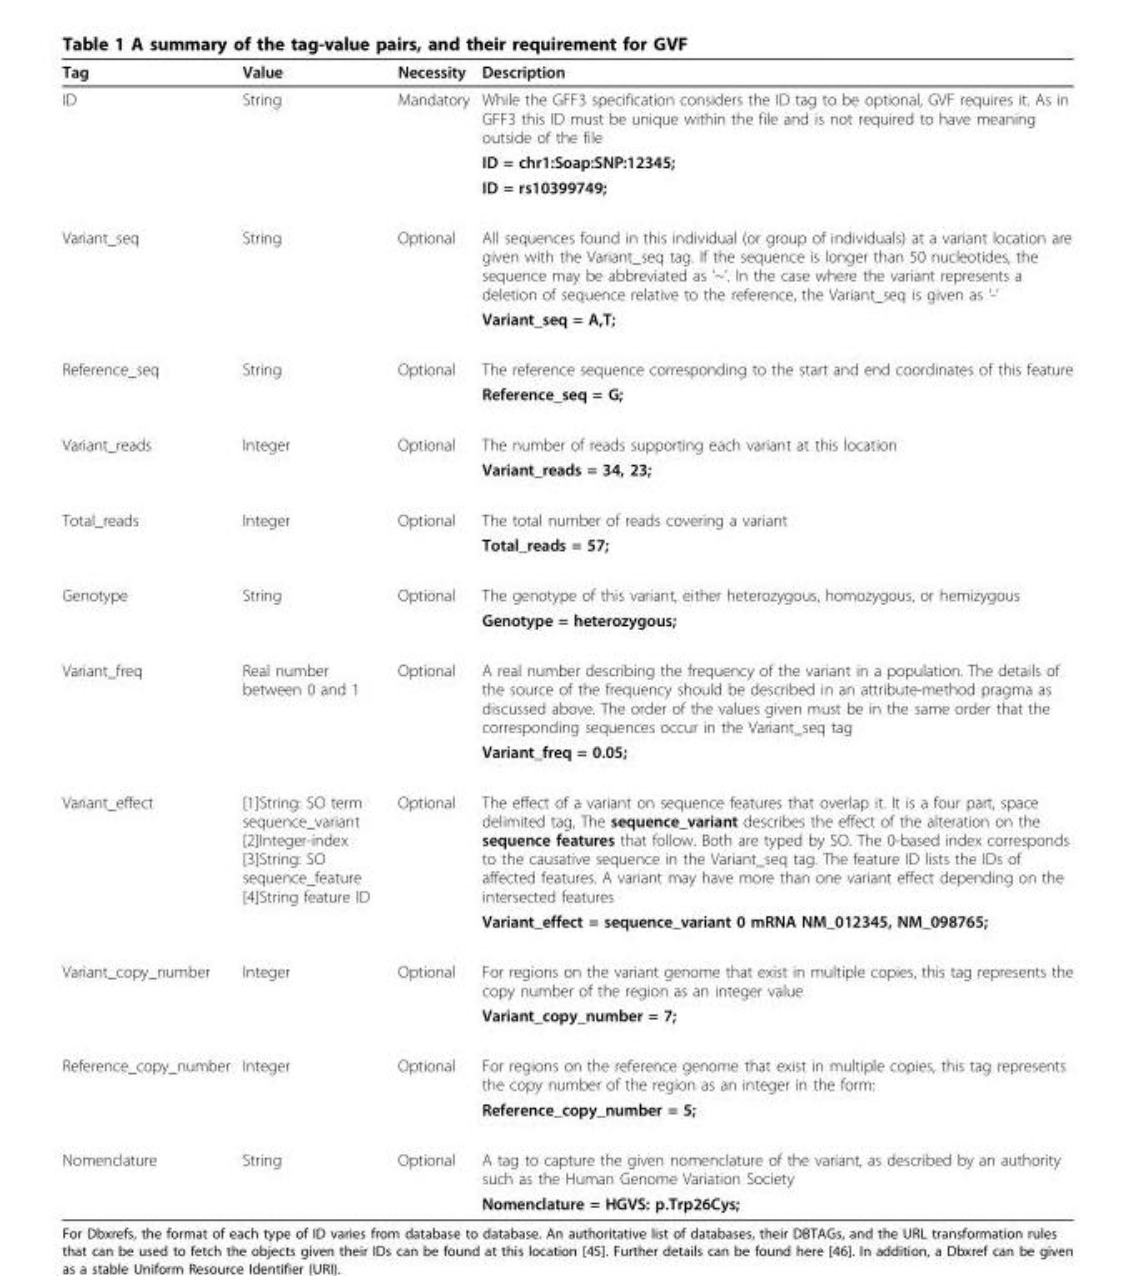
<table><thead><tr><td>Tag</td><td>Value</td><td>Necessity</td><td>Description</td></tr></thead><tbody><tr><td rowspan="3">ID</td><td>String</td><td>Mandatory</td><td>While the GFF3 specification considers the ID tag to be optional, GVF requires it. As in GFF3 this ID must be unique within the file and is not required to have meaning outside of the file</td></tr><tr><td></td><td></td><td>ID = chr1:Soap:SNP:12345;</td></tr><tr><td></td><td></td><td>ID = rs10399749;</td></tr><tr><td rowspan="2">Variant_seq</td><td>String</td><td>Optional</td><td>All sequences found in this individual (or group of individuals) at a variant location are given with the Variant_seq tag. If the sequence is longer than 50 nucleotides, the sequence may be abbreviated as ‘~’. In the case where the variant represents a deletion of sequence relative to the reference, the Variant_seq is given as ‘-’</td></tr><tr><td></td><td></td><td>Variant_seq = A,T;</td></tr><tr><td rowspan="2">Reference_seq</td><td>String</td><td>Optional</td><td>The reference sequence corresponding to the start and end coordinates of this feature</td></tr><tr><td></td><td></td><td>Reference_seq = G;</td></tr><tr><td rowspan="2">Variant_reads</td><td>Integer</td><td>Optional</td><td>The number of reads supporting each variant at this location</td></tr><tr><td></td><td></td><td>Variant_reads = 34, 23;</td></tr><tr><td rowspan="2">Total_reads</td><td>Integer</td><td>Optional</td><td>The total number of reads covering a variant</td></tr><tr><td></td><td></td><td>Total_reads = 57;</td></tr><tr><td rowspan="2">Genotype</td><td>String</td><td>Optional</td><td>The genotype of this variant, either heterozygous, homozygous, or hemizygous</td></tr><tr><td></td><td></td><td>Genotype = heterozygous;</td></tr><tr><td rowspan="2">Variant_freq</td><td>Real number between 0 and 1</td><td>Optional</td><td>A real number describing the frequency of the variant in a population. The details of the source of the frequency should be described in an attribute-method pragma as discussed above. The order of the values given must be in the same order that the corresponding sequences occur in the Variant_seq tag</td></tr><tr><td></td><td></td><td>Variant_freq = 0.05;</td></tr><tr><td rowspan="2">Variant_effect</td><td>[1]String: SO term sequence_variant [2]Integer-index [3]String: SO sequence_feature [4]String feature ID</td><td>Optional</td><td>The effect of a variant on sequence features that overlap it. It is a four part, space delimited tag, The sequence_variant describes the effect of the alteration on the sequence features that follow. Both are typed by SO. The 0-based index corresponds to the causative sequence in the Variant_seq tag. The feature ID lists the IDs of affected features. A variant may have more than one variant effect depending on the intersected features</td></tr><tr><td></td><td></td><td>Variant_effect = sequence_variant 0 mRNA NM_012345, NM_098765;</td></tr><tr><td rowspan="2">Variant_copy_number</td><td>Integer</td><td>Optional</td><td>For regions on the variant genome that exist in multiple copies, this tag represents the copy number of the region as an integer value</td></tr><tr><td></td><td></td><td>Variant_copy_number = 7;</td></tr><tr><td rowspan="2">Reference_copy_number</td><td>Integer</td><td>Optional</td><td>For regions on the reference genome that exist in multiple copies, this tag represents the copy number of the region as an integer in the form:</td></tr><tr><td></td><td></td><td>Reference_copy_number = 5;</td></tr><tr><td rowspan="2">Nomenclature</td><td>String</td><td>Optional</td><td>A tag to capture the given nomenclature of the variant, as described by an authority such as the Human Genome Variation Society</td></tr><tr><td></td><td></td><td>Nomenclature = HGVS: p.Trp26Cys;</td></tr></tbody></table>